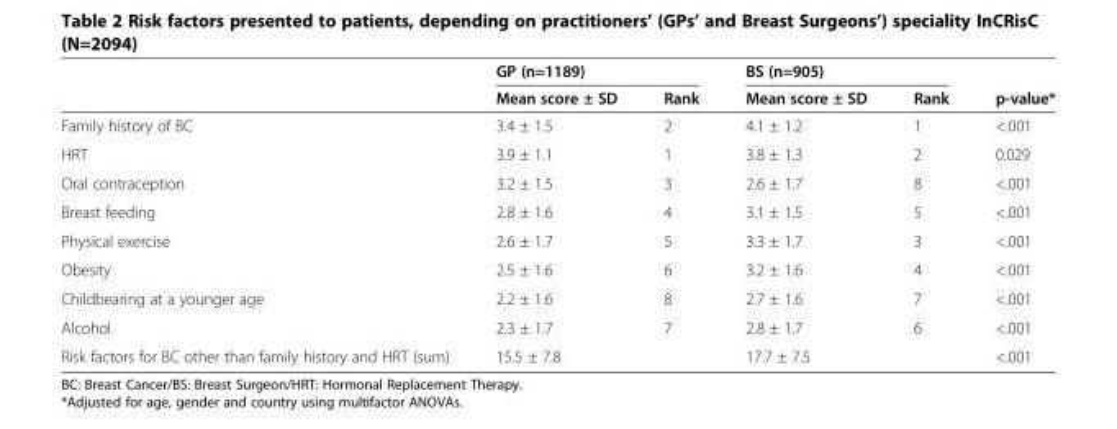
<table><thead><tr><td rowspan="2"></td><td colspan="2">GP (n=1189)</td><td colspan="2">BS (n=905)</td><td rowspan="2">p-value*</td></tr><tr><td>Mean score ± SD</td><td>Rank</td><td>Mean score ± SD</td><td>Rank</td></tr></thead><tbody><tr><td>Family history of BC</td><td>3.4 ± 1.5</td><td>2</td><td>4.1 ± 1.2</td><td>1</td><td>&lt;.001</td></tr><tr><td>HRT</td><td>3.9 ± 1.1</td><td>1</td><td>3.8 ± 1.3</td><td>2</td><td>0.029</td></tr><tr><td>Oral contraception</td><td>3.2 ± 1.5</td><td>3</td><td>2.6 ± 1.7</td><td>8</td><td>&lt;.001</td></tr><tr><td>Breast feeding</td><td>2.8 ± 1.6</td><td>4</td><td>3.1 ± 1.5</td><td>5</td><td>&lt;.001</td></tr><tr><td>Physical exercise</td><td>2.6 ± 1.7</td><td>5</td><td>3.3 ± 1.7</td><td>3</td><td>&lt;.001</td></tr><tr><td>Obesity</td><td>2.5 ± 1.6</td><td>6</td><td>3.2 ± 1.6</td><td>4</td><td>&lt;.001</td></tr><tr><td>Childbearing at a younger age</td><td>2.2 ± 1.6</td><td>8</td><td>2.7 ± 1.6</td><td>7</td><td>&lt;.001</td></tr><tr><td>Alcohol</td><td>2.3 ± 1.7</td><td>7</td><td>2.8 ± 1.7</td><td>6</td><td>&lt;.001</td></tr><tr><td>Risk factors for BC other than family history and HRT (sum)</td><td>15.5 ± 7.8</td><td></td><td>17.7 ± 7.5</td><td></td><td>&lt;.001</td></tr></tbody></table>